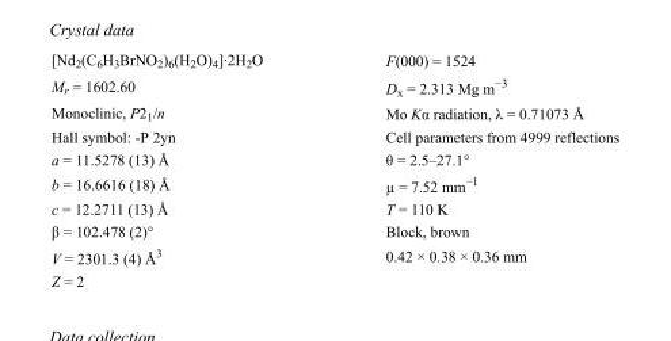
<table><tbody><tr><td>[Nd<sub>2</sub>(C<sub>6</sub>H<sub>3</sub>BrNO<sub>2</sub>)<sub>6</sub>(H<sub>2</sub>O)<sub>4</sub>]·2H<sub>2</sub>O</td><td>F(000) = 1524</td></tr><tr><td>M<sub>r</sub> = 1602.60</td><td>D<sub>x</sub> = 2.313 Mg m<sup>−3</sup></td></tr><tr><td>Monoclinic, P2<sub>1</sub>/n</td><td>Mo Kα radiation, λ = 0.71073 Å</td></tr><tr><td>Hall symbol: -P 2yn</td><td>Cell parameters from 4999 reflections</td></tr><tr><td>a = 11.5278 (13) Å</td><td>θ = 2.5–27.1°</td></tr><tr><td>b = 16.6616 (18) Å</td><td>µ = 7.52 mm<sup>−1</sup></td></tr><tr><td>c = 12.2711 (13) Å</td><td>T = 110 K</td></tr><tr><td>β = 102.478 (2)°</td><td>Block, brown</td></tr><tr><td>V = 2301.3 (4) Å<sup>3</sup></td><td>0.42 × 0.38 × 0.36 mm</td></tr><tr><td>Z = 2</td><td></td></tr></tbody></table>